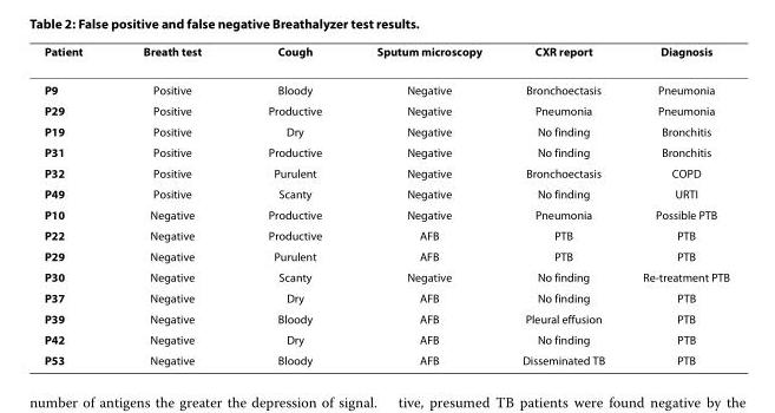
<table><thead><tr><td>Patient</td><td>Breath test</td><td>Cough</td><td>Sputum microscopy</td><td>CXR report</td><td>Diagnosis</td></tr></thead><tbody><tr><td>P9</td><td>Positive</td><td>Bloody</td><td>Negative</td><td>Bronchoectasis</td><td>Pneumonia</td></tr><tr><td>P29</td><td>Positive</td><td>Productive</td><td>Negative</td><td>Pneumonia</td><td>Pneumonia</td></tr><tr><td>P19</td><td>Positive</td><td>Dry</td><td>Negative</td><td>No finding</td><td>Bronchitis</td></tr><tr><td>P31</td><td>Positive</td><td>Productive</td><td>Negative</td><td>No finding</td><td>Bronchitis</td></tr><tr><td>P32</td><td>Positive</td><td>Purulent</td><td>Negative</td><td>Bronchoectasis</td><td>COPD</td></tr><tr><td>P49</td><td>Positive</td><td>Scanty</td><td>Negative</td><td>No finding</td><td>URTI</td></tr><tr><td>P10</td><td>Negative</td><td>Productive</td><td>Negative</td><td>Pneumonia</td><td>Possible PTB</td></tr><tr><td>P22</td><td>Negative</td><td>Productive</td><td>AFB</td><td>PTB</td><td>PTB</td></tr><tr><td>P29</td><td>Negative</td><td>Purulent</td><td>AFB</td><td>PTB</td><td>PTB</td></tr><tr><td>P30</td><td>Negative</td><td>Scanty</td><td>Negative</td><td>No finding</td><td>Re-treatment PTB</td></tr><tr><td>P37</td><td>Negative</td><td>Dry</td><td>AFB</td><td>No finding</td><td>PTB</td></tr><tr><td>P39</td><td>Negative</td><td>Bloody</td><td>AFB</td><td>Pleural effusion</td><td>PTB</td></tr><tr><td>P42</td><td>Negative</td><td>Dry</td><td>AFB</td><td>No finding</td><td>PTB</td></tr><tr><td>P53</td><td>Negative</td><td>Bloody</td><td>AFB</td><td>Disseminated TB</td><td>PTB</td></tr></tbody></table>